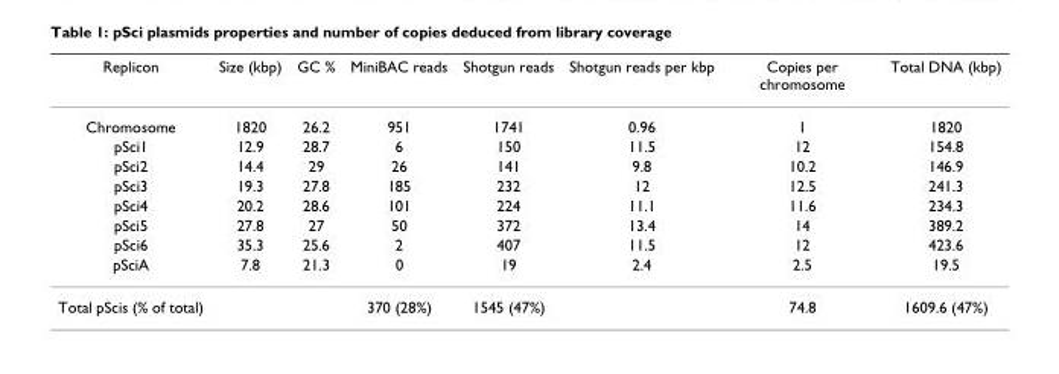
<table><thead><tr><td>Replicon</td><td>Size (kbp)</td><td>GC %</td><td>MiniBAC reads</td><td>Shotgun reads</td><td>Shotgun reads per kbp</td><td>Copies per chromosome</td><td>Total DNA (kbp)</td></tr></thead><tbody><tr><td>Chromosome</td><td>1820</td><td>26.2</td><td>951</td><td>1741</td><td>0.96</td><td>1</td><td>1820</td></tr><tr><td>pSci1</td><td>12.9</td><td>28.7</td><td>6</td><td>150</td><td>11.5</td><td>12</td><td>154.8</td></tr><tr><td>pSci2</td><td>14.4</td><td>29</td><td>26</td><td>141</td><td>9.8</td><td>10.2</td><td>146.9</td></tr><tr><td>pSci3</td><td>19.3</td><td>27.8</td><td>185</td><td>232</td><td>12</td><td>12.5</td><td>241.3</td></tr><tr><td>pSci4</td><td>20.2</td><td>28.6</td><td>101</td><td>224</td><td>11.1</td><td>11.6</td><td>234.3</td></tr><tr><td>pSci5</td><td>27.8</td><td>27</td><td>50</td><td>372</td><td>13.4</td><td>14</td><td>389.2</td></tr><tr><td>pSci6</td><td>35.3</td><td>25.6</td><td>2</td><td>407</td><td>11.5</td><td>12</td><td>423.6</td></tr><tr><td>pSciA</td><td>7.8</td><td>21.3</td><td>0</td><td>19</td><td>2.4</td><td>2.5</td><td>19.5</td></tr><tr><td>Total pScis (% of total)</td><td></td><td></td><td>370 (28%)</td><td>1545 (47%)</td><td></td><td>74.8</td><td>1609.6 (47%)</td></tr></tbody></table>